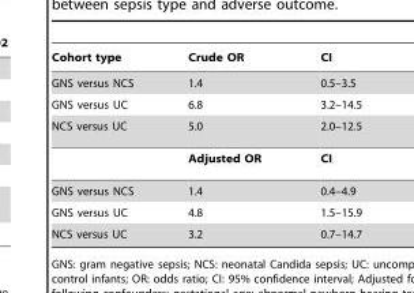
<table><thead><tr><td>Cohort type</td><td>Crude OR</td><td>CI</td></tr></thead><tbody><tr><td>GNS versus NCS</td><td>1.4</td><td>0.5–3.5</td></tr><tr><td>GNS versus UC</td><td>6.8</td><td>3.2–14.5</td></tr><tr><td rowspan="2">NCS versus UC</td><td>5.0</td><td>2.0–12.5</td></tr><tr><td>Adjusted OR</td><td>CI</td></tr><tr><td>GNS versus NCS</td><td>1.4</td><td>0.4–4.9</td></tr><tr><td>GNS versus UC</td><td>4.8</td><td>1.5–15.9</td></tr><tr><td>NCS versus UC</td><td>3.2</td><td>0.7–14.7</td></tr></tbody></table>